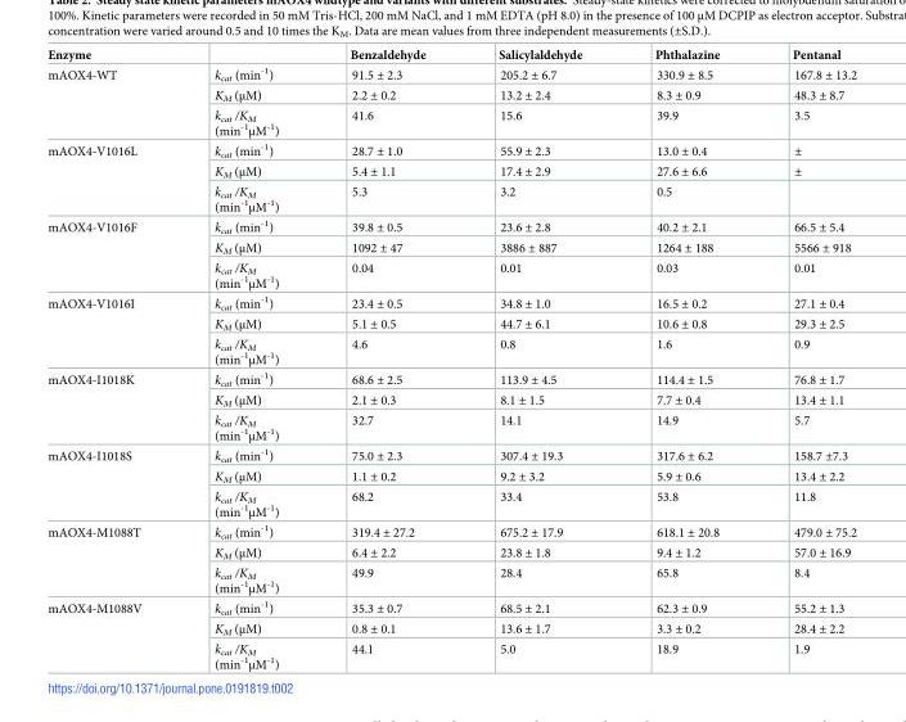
<table><thead><tr><td>Enzyme</td><td></td><td>Benzaldehyde</td><td>Salicylaldehyde</td><td>Phthalazine</td><td>Pentanal</td></tr></thead><tbody><tr><td rowspan="3">mAOX4-WT</td><td>k<sub>cat</sub> (min<sup>-1</sup>)</td><td>91.5 ± 2.3</td><td>205.2 ± 6.7</td><td>330.9 ± 8.5</td><td>167.8 ± 13.2</td></tr><tr><td>K<sub>M</sub> (μM)</td><td>2.2 ± 0.2</td><td>13.2 ± 2.4</td><td>8.3 ± 0.9</td><td>48.3 ± 8.7</td></tr><tr><td>k<sub>cat</sub> /K<sub>M</sub> (min<sup>-1</sup>μM<sup>-1</sup>)</td><td>41.6</td><td>15.6</td><td>39.9</td><td>3.5</td></tr><tr><td rowspan="3">mAOX4-V1016L</td><td>k<sub>cat</sub> (min<sup>-1</sup>)</td><td>28.7 ± 1.0</td><td>55.9 ± 2.3</td><td>13.0 ± 0.4</td><td>±</td></tr><tr><td>K<sub>M</sub> (μM)</td><td>5.4 ± 1.1</td><td>17.4 ± 2.9</td><td>27.6 ± 6.6</td><td>±</td></tr><tr><td>k<sub>cat</sub> /K<sub>M</sub> (min<sup>-1</sup>μM<sup>-1</sup>)</td><td>5.3</td><td>3.2</td><td>0.5</td><td></td></tr><tr><td rowspan="3">mAOX4-V1016F</td><td>k<sub>cat</sub> (min<sup>-1</sup>)</td><td>39.8 ± 0.5</td><td>23.6 ± 2.8</td><td>40.2 ± 2.1</td><td>66.5 ± 5.4</td></tr><tr><td>K<sub>M</sub> (μM)</td><td>1092 ± 47</td><td>3886 ± 887</td><td>1264 ± 188</td><td>5566 ± 918</td></tr><tr><td>k<sub>cat</sub> /K<sub>M</sub> (min<sup>-1</sup>μM<sup>-1</sup>)</td><td>0.04</td><td>0.01</td><td>0.03</td><td>0.01</td></tr><tr><td rowspan="3">mAOX4-V1016I</td><td>k<sub>cat</sub> (min<sup>-1</sup>)</td><td>23.4 ± 0.5</td><td>34.8 ± 1.0</td><td>16.5 ± 0.2</td><td>27.1 ± 0.4</td></tr><tr><td>K<sub>M</sub> (μM)</td><td>5.1 ± 0.5</td><td>44.7 ± 6.1</td><td>10.6 ± 0.8</td><td>29.3 ± 2.5</td></tr><tr><td>k<sub>cat</sub> /K<sub>M</sub> (min<sup>-1</sup>μM<sup>-1</sup>)</td><td>4.6</td><td>0.8</td><td>1.6</td><td>0.9</td></tr><tr><td rowspan="3">mAOX4-I1018K</td><td>k<sub>cat</sub> (min<sup>-1</sup>)</td><td>68.6 ± 2.5</td><td>113.9 ± 4.5</td><td>114.4 ± 1.5</td><td>76.8 ± 1.7</td></tr><tr><td>K<sub>M</sub> (μM)</td><td>2.1 ± 0.3</td><td>8.1 ± 1.5</td><td>7.7 ± 0.4</td><td>13.4 ± 1.1</td></tr><tr><td>k<sub>cat</sub> /K<sub>M</sub> (min<sup>-1</sup>μM<sup>-1</sup>)</td><td>32.7</td><td>14.1</td><td>14.9</td><td>5.7</td></tr><tr><td rowspan="3">mAOX4-I1018S</td><td>k<sub>cat</sub> (min<sup>-1</sup>)</td><td>75.0 ± 2.3</td><td>307.4 ± 19.3</td><td>317.6 ± 6.2</td><td>158.7 ±7.3</td></tr><tr><td>K<sub>M</sub> (μM)</td><td>1.1 ± 0.2</td><td>9.2 ± 3.2</td><td>5.9 ± 0.6</td><td>13.4 ± 2.2</td></tr><tr><td>k<sub>cat</sub> /K<sub>M</sub> (min<sup>-1</sup>μM<sup>-1</sup>)</td><td>68.2</td><td>33.4</td><td>53.8</td><td>11.8</td></tr><tr><td rowspan="3">mAOX4-M1088T</td><td>k<sub>cat</sub> (min<sup>-1</sup>)</td><td>319.4 ± 27.2</td><td>675.2 ± 17.9</td><td>618.1 ± 20.8</td><td>479.0 ± 75.2</td></tr><tr><td>K<sub>M</sub> (μM)</td><td>6.4 ± 2.2</td><td>23.8 ± 1.8</td><td>9.4 ± 1.2</td><td>57.0 ± 16.9</td></tr><tr><td>k<sub>cat</sub> /K<sub>M</sub> (min<sup>-1</sup>μM<sup>-1</sup>)</td><td>49.9</td><td>28.4</td><td>65.8</td><td>8.4</td></tr><tr><td rowspan="3">mAOX4-M1088V</td><td>k<sub>cat</sub> (min<sup>-1</sup>)</td><td>35.3 ± 0.7</td><td>68.5 ± 2.1</td><td>62.3 ± 0.9</td><td>55.2 ± 1.3</td></tr><tr><td>K<sub>M</sub> (μM)</td><td>0.8 ± 0.1</td><td>13.6 ± 1.7</td><td>3.3 ± 0.2</td><td>28.4 ± 2.2</td></tr><tr><td>k<sub>cat</sub> /K<sub>M</sub> (min<sup>-1</sup>μM<sup>-1</sup>)</td><td>44.1</td><td>5.0</td><td>18.9</td><td>1.9</td></tr></tbody></table>